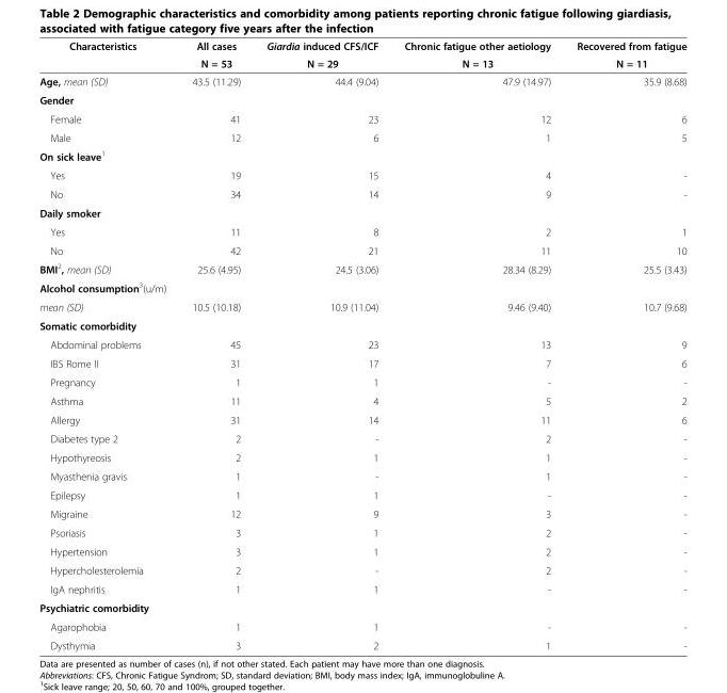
<table><thead><tr><td rowspan="2">Characteristics</td><td rowspan="2">All cases N = 53</td><td rowspan="2">Giardia induced CFS/ICF N = 29</td><td rowspan="2">Chronic fatigue other aetiology N = 13</td><td rowspan="2">Recovered from fatigue N = 11</td></tr><tr></tr></thead><tbody><tr><td>Age, mean (SD)</td><td>43.5 (11.29)</td><td>44.4 (9.04)</td><td>47.9 (14.97)</td><td>35.9 (8.68)</td></tr><tr><td colspan="5">Gender</td></tr><tr><td>Female</td><td>41</td><td>23</td><td>12</td><td>6</td></tr><tr><td>Male</td><td>12</td><td>6</td><td>1</td><td>5</td></tr><tr><td colspan="5">On sick leave<sup>1</sup></td></tr><tr><td>Yes</td><td>19</td><td>15</td><td>4</td><td>-</td></tr><tr><td>No</td><td>34</td><td>14</td><td>9</td><td>-</td></tr><tr><td colspan="5">Daily smoker</td></tr><tr><td>Yes</td><td>11</td><td>8</td><td>2</td><td>1</td></tr><tr><td>No</td><td>42</td><td>21</td><td>11</td><td>10</td></tr><tr><td>BMI<sup>2</sup>, mean (SD)</td><td>25.6 (4.95)</td><td>24.5 (3.06)</td><td>28.34 (8.29)</td><td>25.5 (3.43)</td></tr><tr><td colspan="5">Alcohol consumption<sup>3</sup>(u/m)</td></tr><tr><td>mean (SD)</td><td>10.5 (10.18)</td><td>10.9 (11.04)</td><td>9.46 (9.40)</td><td>10.7 (9.68)</td></tr><tr><td colspan="5">Somatic comorbidity</td></tr><tr><td>Abdominal problems</td><td>45</td><td>23</td><td>13</td><td>9</td></tr><tr><td>IBS Rome II</td><td>31</td><td>17</td><td>7</td><td>6</td></tr><tr><td>Pregnancy</td><td>1</td><td>1</td><td>-</td><td>-</td></tr><tr><td>Asthma</td><td>11</td><td>4</td><td>5</td><td>2</td></tr><tr><td>Allergy</td><td>31</td><td>14</td><td>11</td><td>6</td></tr><tr><td>Diabetes type 2</td><td>2</td><td>-</td><td>2</td><td>-</td></tr><tr><td>Hypothyreosis</td><td>2</td><td>1</td><td>1</td><td>-</td></tr><tr><td>Myasthenia gravis</td><td>1</td><td>-</td><td>1</td><td>-</td></tr><tr><td>Epilepsy</td><td>1</td><td>1</td><td>-</td><td>-</td></tr><tr><td>Migraine</td><td>12</td><td>9</td><td>3</td><td>-</td></tr><tr><td>Psoriasis</td><td>3</td><td>1</td><td>2</td><td>-</td></tr><tr><td>Hypertension</td><td>3</td><td>1</td><td>2</td><td>-</td></tr><tr><td>Hypercholesterolemia</td><td>2</td><td>-</td><td>2</td><td>-</td></tr><tr><td>IgA nephritis</td><td>1</td><td>1</td><td>-</td><td>-</td></tr><tr><td colspan="5">Psychiatric comorbidity</td></tr><tr><td>Agarophobia</td><td>1</td><td>1</td><td>-</td><td>-</td></tr><tr><td>Dysthymia</td><td>3</td><td>2</td><td>1</td><td>-</td></tr></tbody></table>